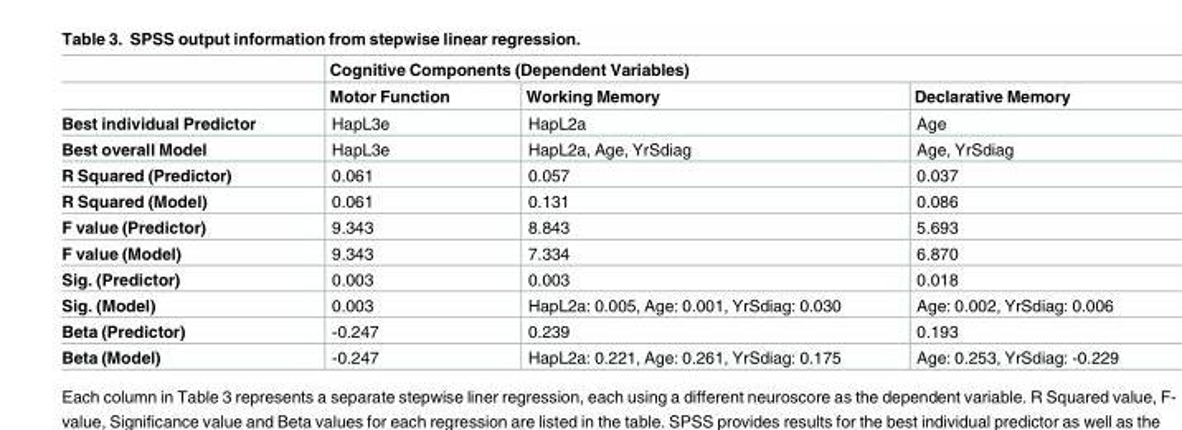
<table><thead><tr><td rowspan="2"></td><td colspan="3">Cognitive Components (Dependent Variables)</td></tr><tr><td>Motor Function</td><td>Working Memory</td><td>Declarative Memory</td></tr></thead><tbody><tr><td>Best individual Predictor</td><td>HapL3e</td><td>HapL2a</td><td>Age</td></tr><tr><td>Best overall Model</td><td>HapL3e</td><td>HapL2a, Age, YrSdiag</td><td>Age, YrSdiag</td></tr><tr><td>R Squared (Predictor)</td><td>0.061</td><td>0.057</td><td>0.037</td></tr><tr><td>R Squared (Model)</td><td>0.061</td><td>0.131</td><td>0.086</td></tr><tr><td>F value (Predictor)</td><td>9.343</td><td>8.843</td><td>5.693</td></tr><tr><td>F value (Model)</td><td>9.343</td><td>7.334</td><td>6.870</td></tr><tr><td>Sig. (Predictor)</td><td>0.003</td><td>0.003</td><td>0.018</td></tr><tr><td>Sig. (Model)</td><td>0.003</td><td>HapL2a: 0.005, Age: 0.001, YrSdiag: 0.030</td><td>Age: 0.002, YrSdiag: 0.006</td></tr><tr><td>Beta (Predictor)</td><td>-0.247</td><td>0.239</td><td>0.193</td></tr><tr><td>Beta (Model)</td><td>-0.247</td><td>HapL2a: 0.221, Age: 0.261, YrSdiag: 0.175</td><td>Age: 0.253, YrSdiag: -0.229</td></tr></tbody></table>